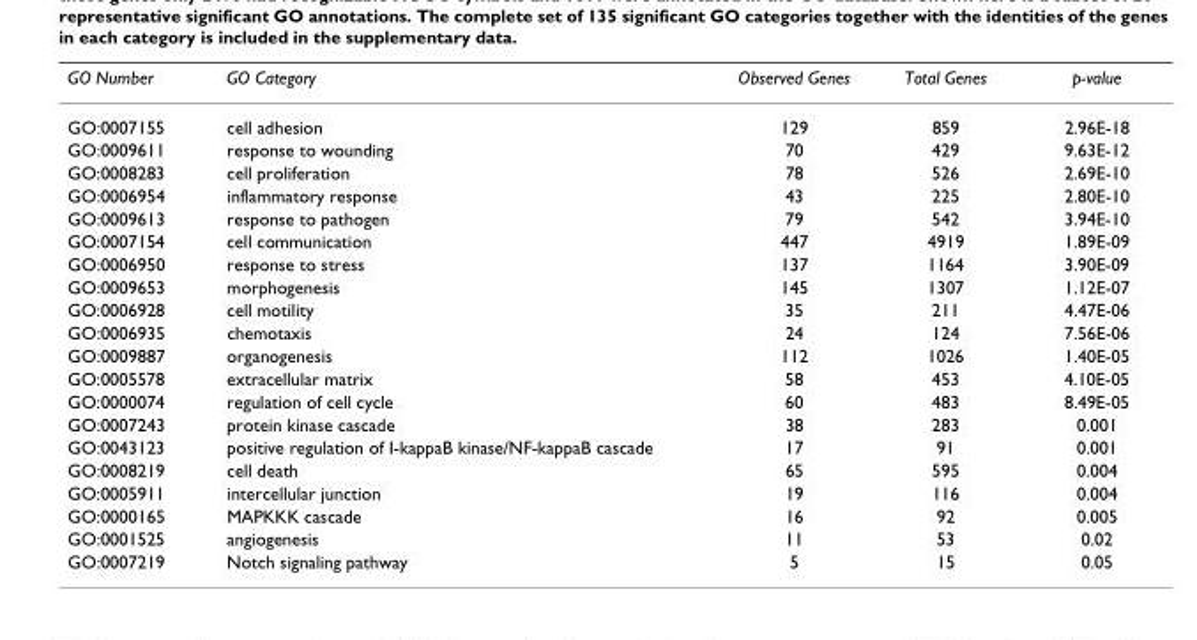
<table><thead><tr><td>GO Number</td><td>GO Category</td><td>Observed Genes</td><td>Total Genes</td><td>p-value</td></tr></thead><tbody><tr><td>GO:0007155</td><td>cell adhesion</td><td>129</td><td>859</td><td>2.96E-18</td></tr><tr><td>GO:0009611</td><td>response to wounding</td><td>70</td><td>429</td><td>9.63E-12</td></tr><tr><td>GO:0008283</td><td>cell proliferation</td><td>78</td><td>526</td><td>2.69E-10</td></tr><tr><td>GO:0006954</td><td>inflammatory response</td><td>43</td><td>225</td><td>2.80E-10</td></tr><tr><td>GO:0009613</td><td>response to pathogen</td><td>79</td><td>542</td><td>3.94E-10</td></tr><tr><td>GO:0007154</td><td>cell communication</td><td>447</td><td>4919</td><td>1.89E-09</td></tr><tr><td>GO:0006950</td><td>response to stress</td><td>137</td><td>1164</td><td>3.90E-09</td></tr><tr><td>GO:0009653</td><td>morphogenesis</td><td>145</td><td>1307</td><td>1.12E-07</td></tr><tr><td>GO:0006928</td><td>cell motility</td><td>35</td><td>211</td><td>4.47E-06</td></tr><tr><td>GO:0006935</td><td>chemotaxis</td><td>24</td><td>124</td><td>7.56E-06</td></tr><tr><td>GO:0009887</td><td>organogenesis</td><td>112</td><td>1026</td><td>1.40E-05</td></tr><tr><td>GO:0005578</td><td>extracellular matrix</td><td>58</td><td>453</td><td>4.10E-05</td></tr><tr><td>GO:0000074</td><td>regulation of cell cycle</td><td>60</td><td>483</td><td>8.49E-05</td></tr><tr><td>GO:0007243</td><td>protein kinase cascade</td><td>38</td><td>283</td><td>0.001</td></tr><tr><td>GO:0043123</td><td>positive regulation of I-kappaB kinase/NF-kappaB cascade</td><td>17</td><td>91</td><td>0.001</td></tr><tr><td>GO:0008219</td><td>cell death</td><td>65</td><td>595</td><td>0.004</td></tr><tr><td>GO:0005911</td><td>intercellular junction</td><td>19</td><td>116</td><td>0.004</td></tr><tr><td>GO:0000165</td><td>MAPKKK cascade</td><td>16</td><td>92</td><td>0.005</td></tr><tr><td>GO:0001525</td><td>angiogenesis</td><td>11</td><td>53</td><td>0.02</td></tr><tr><td>GO:0007219</td><td>Notch signaling pathway</td><td>5</td><td>15</td><td>0.05</td></tr></tbody></table>